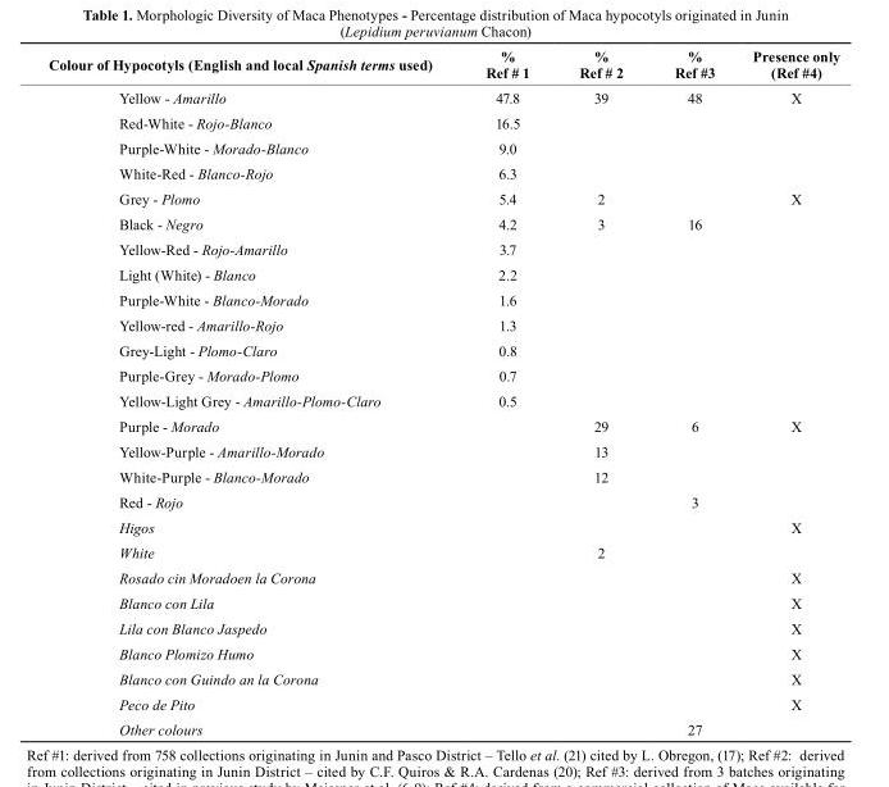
<table><thead><tr><td>colour of Hypocotyls (English and local Spanish terms used)</td><td>% ref # 1</td><td>% ref # 2</td><td>% ref #3</td><td>Presence only (ref #4)</td></tr></thead><tbody><tr><td>Yellow - Amarillo</td><td>47.8</td><td>39</td><td>48</td><td>X</td></tr><tr><td>Red-White - Rojo-Blanco</td><td>16.5</td><td></td><td></td><td></td></tr><tr><td>Purple-White - Morado-Blanco</td><td>9.0</td><td></td><td></td><td></td></tr><tr><td>White-Red - Blanco-Rojo</td><td>6.3</td><td></td><td></td><td></td></tr><tr><td>Grey - Plomo</td><td>5.4</td><td>2</td><td></td><td>X</td></tr><tr><td>Black - Negro</td><td>4.2</td><td>3</td><td>16</td><td></td></tr><tr><td>Yellow-Red - Rojo-Amarillo</td><td>3.7</td><td></td><td></td><td></td></tr><tr><td>Light (White) - Blanco</td><td>2.2</td><td></td><td></td><td></td></tr><tr><td>Purple-White - Blanco-Morado</td><td>1.6</td><td></td><td></td><td></td></tr><tr><td>Yellow-red - Amarillo-Rojo</td><td>1.3</td><td></td><td></td><td></td></tr><tr><td>Grey-Light - Plomo-Claro</td><td>0.8</td><td></td><td></td><td></td></tr><tr><td>Purple-Grey - Morado-Plomo</td><td>0.7</td><td></td><td></td><td></td></tr><tr><td>Yellow-Light Grey - Amarillo-Plomo-Claro</td><td>0.5</td><td></td><td></td><td></td></tr><tr><td>Purple - Morado</td><td></td><td>29</td><td>6</td><td>X</td></tr><tr><td>Yellow-Purple - Amarillo-Morado</td><td></td><td>13</td><td></td><td></td></tr><tr><td>White-Purple - Blanco-Morado</td><td></td><td>12</td><td></td><td></td></tr><tr><td>Red - Rojo</td><td></td><td></td><td>3</td><td></td></tr><tr><td>Higos</td><td></td><td></td><td></td><td>X</td></tr><tr><td>White</td><td></td><td>2</td><td></td><td></td></tr><tr><td>Rosado cin Moradoen la Corona</td><td></td><td></td><td></td><td>X</td></tr><tr><td>Blanco con Lila</td><td></td><td></td><td></td><td>X</td></tr><tr><td>Lila con Blanco Jaspedo</td><td></td><td></td><td></td><td>X</td></tr><tr><td>Blanco Plomizo Humo</td><td></td><td></td><td></td><td>X</td></tr><tr><td>Blanco con Guindo an la Corona</td><td></td><td></td><td></td><td>X</td></tr><tr><td>Peco de Pito</td><td></td><td></td><td></td><td>X</td></tr><tr><td>Other colours</td><td></td><td></td><td>27</td><td></td></tr></tbody></table>